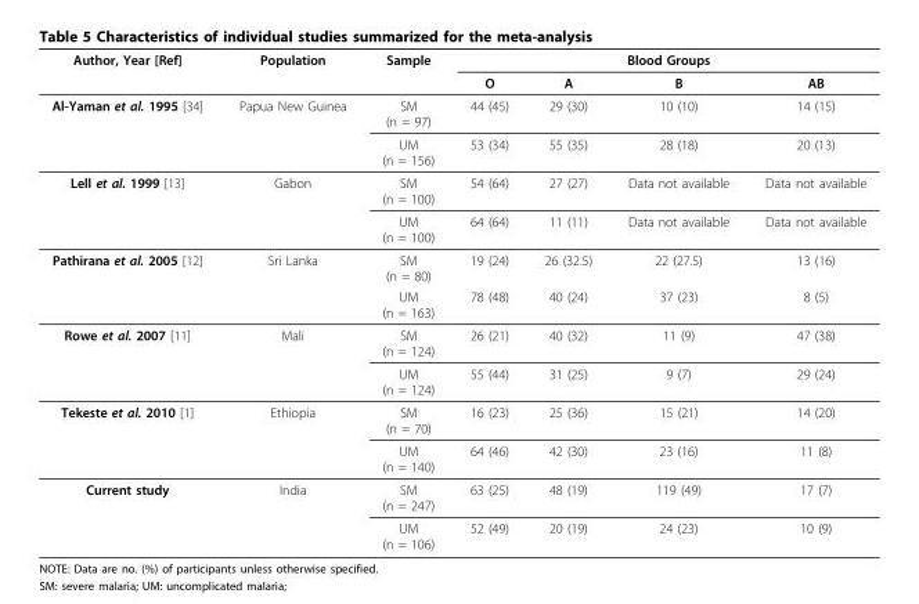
<table><thead><tr><td rowspan="2">Author, Year [Ref]</td><td rowspan="2">Population</td><td rowspan="2">Sample</td><td colspan="4">Blood Groups</td></tr><tr><td>O</td><td>A</td><td>B</td><td>AB</td></tr></thead><tbody><tr><td rowspan="2">Al-Yaman et al. 1995 [34]</td><td>Papua New Guinea</td><td>SM (n = 97)</td><td>44 (45)</td><td>29 (30)</td><td>10 (10)</td><td>14 (15)</td></tr><tr><td></td><td>UM (n = 156)</td><td>53 (34)</td><td>55 (35)</td><td>28 (18)</td><td>20 (13)</td></tr><tr><td rowspan="2">Lell et al. 1999 [13]</td><td>Gabon</td><td>SM (n = 100)</td><td>54 (64)</td><td>27 (27)</td><td>Data not available</td><td>Data not available</td></tr><tr><td></td><td>UM (n = 100)</td><td>64 (64)</td><td>11 (11)</td><td>Data not available</td><td>Data not available</td></tr><tr><td rowspan="2">Pathirana et al. 2005 [12]</td><td>Sri Lanka</td><td>SM (n = 80)</td><td>19 (24)</td><td>26 (32.5)</td><td>22 (27.5)</td><td>13 (16)</td></tr><tr><td></td><td>UM (n = 163)</td><td>78 (48)</td><td>40 (24)</td><td>37 (23)</td><td>8 (5)</td></tr><tr><td rowspan="2">Rowe et al. 2007 [11]</td><td>Mali</td><td>SM (n = 124)</td><td>26 (21)</td><td>40 (32)</td><td>11 (9)</td><td>47 (38)</td></tr><tr><td></td><td>UM (n = 124)</td><td>55 (44)</td><td>31 (25)</td><td>9 (7)</td><td>29 (24)</td></tr><tr><td rowspan="2">Tekeste et al. 2010 [1]</td><td>Ethiopia</td><td>SM (n = 70)</td><td>16 (23)</td><td>25 (36)</td><td>15 (21)</td><td>14 (20)</td></tr><tr><td></td><td>UM (n = 140)</td><td>64 (46)</td><td>42 (30)</td><td>23 (16)</td><td>11 (8)</td></tr><tr><td rowspan="2">Current study</td><td>India</td><td>SM (n = 247)</td><td>63 (25)</td><td>48 (19)</td><td>119 (49)</td><td>17 (7)</td></tr><tr><td></td><td>UM (n = 106)</td><td>52 (49)</td><td>20 (19)</td><td>24 (23)</td><td>10 (9)</td></tr></tbody></table>